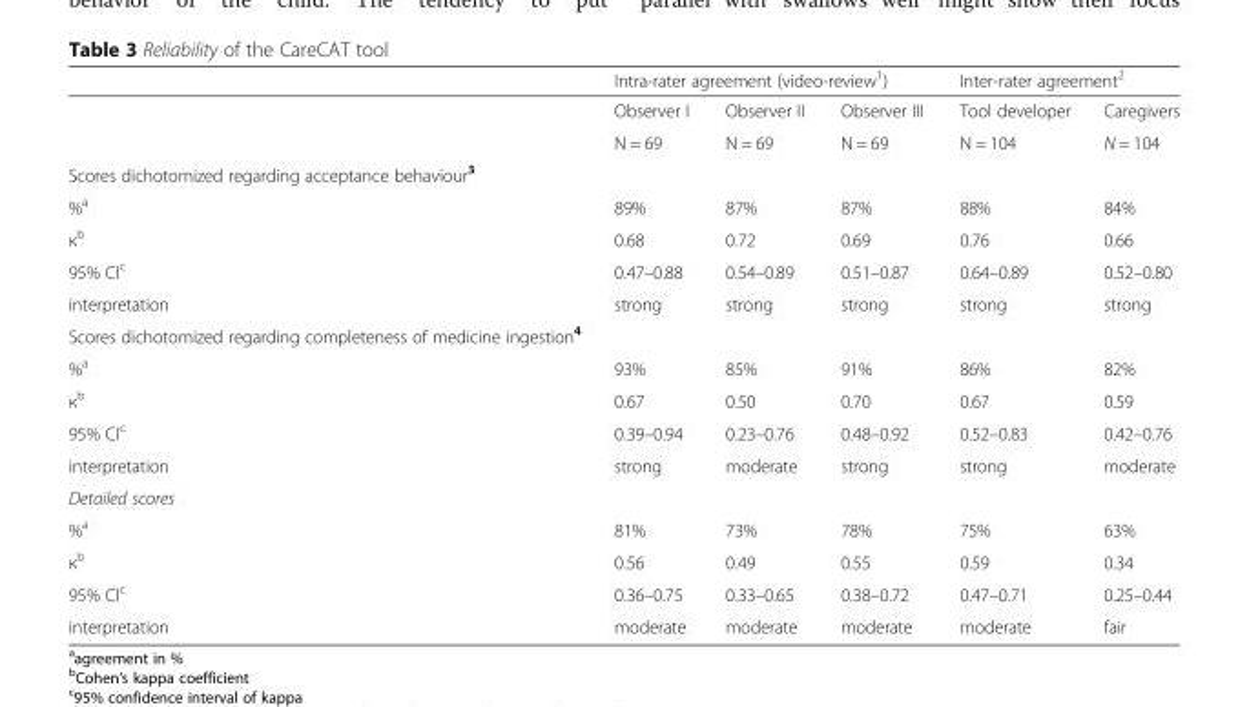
<table><thead><tr><td rowspan="2"></td><td colspan="3">Intra-rater agreement (video-review<sup>1</sup>)</td><td colspan="2">Inter-rater agreement<sup>2</sup></td></tr><tr><td>Observer I</td><td>Observer II</td><td>Observer III</td><td>Tool developer</td><td>Caregivers</td></tr></thead><tbody><tr><td></td><td>N = 69</td><td>N = 69</td><td>N = 69</td><td>N = 104</td><td>N = 104</td></tr><tr><td colspan="6">Scores dichotomized regarding acceptance behaviour<sup>3</sup></td></tr><tr><td>%<sup>a</sup></td><td>89%</td><td>87%</td><td>87%</td><td>88%</td><td>84%</td></tr><tr><td>к<sup>b</sup></td><td>0.68</td><td>0.72</td><td>0.69</td><td>0.76</td><td>0.66</td></tr><tr><td>95% CI<sup>c</sup></td><td>0.47–0.88</td><td>0.54–0.89</td><td>0.51–0.87</td><td>0.64–0.89</td><td>0.52–0.80</td></tr><tr><td>interpretation</td><td>strong</td><td>strong</td><td>strong</td><td>strong</td><td>strong</td></tr><tr><td colspan="6">Scores dichotomized regarding completeness of medicine ingestion<sup>4</sup></td></tr><tr><td>%<sup>a</sup></td><td>93%</td><td>85%</td><td>91%</td><td>86%</td><td>82%</td></tr><tr><td>к<sup>b</sup></td><td>0.67</td><td>0.50</td><td>0.70</td><td>0.67</td><td>0.59</td></tr><tr><td>95% CI<sup>c</sup></td><td>0.39–0.94</td><td>0.23–0.76</td><td>0.48–0.92</td><td>0.52–0.83</td><td>0.42–0.76</td></tr><tr><td>interpretation</td><td>strong</td><td>moderate</td><td>strong</td><td>strong</td><td>moderate</td></tr><tr><td colspan="6">Detailed scores</td></tr><tr><td>%<sup>a</sup></td><td>81%</td><td>73%</td><td>78%</td><td>75%</td><td>63%</td></tr><tr><td>к<sup>b</sup></td><td>0.56</td><td>0.49</td><td>0.55</td><td>0.59</td><td>0.34</td></tr><tr><td>95% CI<sup>c</sup></td><td>0.36–0.75</td><td>0.33–0.65</td><td>0.38–0.72</td><td>0.47–0.71</td><td>0.25–0.44</td></tr><tr><td>interpretation</td><td>moderate</td><td>moderate</td><td>moderate</td><td>moderate</td><td>fair</td></tr></tbody></table>